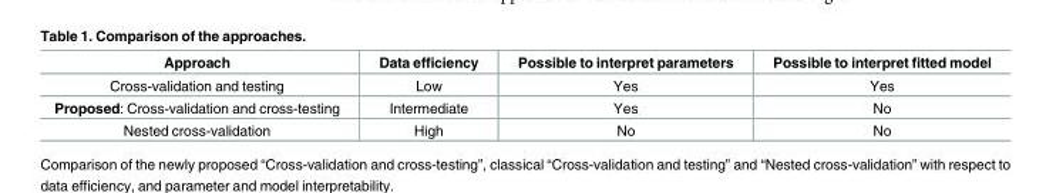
<table><thead><tr><td>Approach</td><td>Data efficiency</td><td>Possible to interpret parameters</td><td>Possible to interpret fitted model</td></tr></thead><tbody><tr><td>Cross-validation and testing</td><td>Low</td><td>Yes</td><td>Yes</td></tr><tr><td>Proposed: Cross-validation and cross-testing</td><td>Intermediate</td><td>Yes</td><td>No</td></tr><tr><td>Nested cross-validation</td><td>High</td><td>No</td><td>No</td></tr></tbody></table>